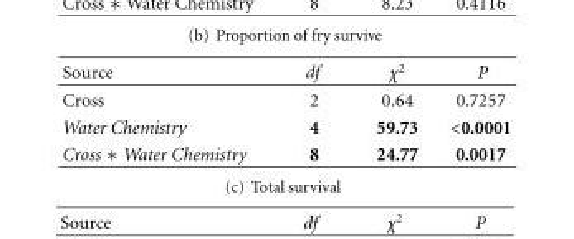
<table><thead><tr><td>Source</td><td>df</td><td>χ<sup>2</sup></td><td>P</td></tr></thead><tbody><tr><td>Cross</td><td>2</td><td>0.64</td><td>0.7257</td></tr><tr><td>Water Chemistry</td><td>4</td><td>59.73</td><td>&lt;0.0001</td></tr><tr><td>Cross ∗ Water Chemistry</td><td>8</td><td>24.77</td><td>0.0017</td></tr></tbody></table>